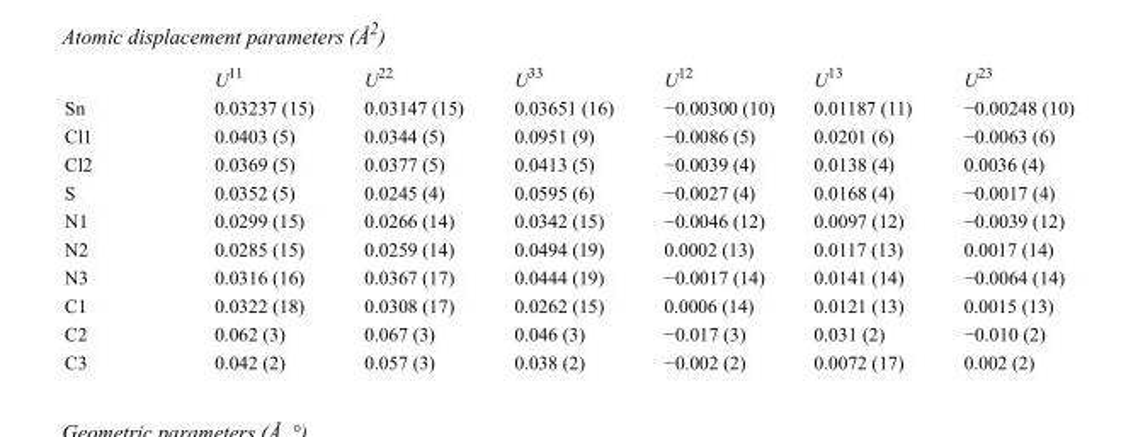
<table><thead><tr><td></td><td>U<sup>11</sup></td><td>U<sup>22</sup></td><td>U<sup>33</sup></td><td>U<sup>12</sup></td><td>U<sup>13</sup></td><td>U<sup>23</sup></td></tr></thead><tbody><tr><td>Sn</td><td>0.03237 (15)</td><td>0.03147 (15)</td><td>0.03651 (16)</td><td>−0.00300 (10)</td><td>0.01187 (11)</td><td>−0.00248 (10)</td></tr><tr><td>Cl1</td><td>0.0403 (5)</td><td>0.0344 (5)</td><td>0.0951 (9)</td><td>−0.0086 (5)</td><td>0.0201 (6)</td><td>−0.0063 (6)</td></tr><tr><td>Cl2</td><td>0.0369 (5)</td><td>0.0377 (5)</td><td>0.0413 (5)</td><td>−0.0039 (4)</td><td>0.0138 (4)</td><td>0.0036 (4)</td></tr><tr><td>S</td><td>0.0352 (5)</td><td>0.0245 (4)</td><td>0.0595 (6)</td><td>−0.0027 (4)</td><td>0.0168 (4)</td><td>−0.0017 (4)</td></tr><tr><td>N1</td><td>0.0299 (15)</td><td>0.0266 (14)</td><td>0.0342 (15)</td><td>−0.0046 (12)</td><td>0.0097 (12)</td><td>−0.0039 (12)</td></tr><tr><td>N2</td><td>0.0285 (15)</td><td>0.0259 (14)</td><td>0.0494 (19)</td><td>0.0002 (13)</td><td>0.0117 (13)</td><td>0.0017 (14)</td></tr><tr><td>N3</td><td>0.0316 (16)</td><td>0.0367 (17)</td><td>0.0444 (19)</td><td>−0.0017 (14)</td><td>0.0141 (14)</td><td>−0.0064 (14)</td></tr><tr><td>C1</td><td>0.0322 (18)</td><td>0.0308 (17)</td><td>0.0262 (15)</td><td>0.0006 (14)</td><td>0.0121 (13)</td><td>0.0015 (13)</td></tr><tr><td>C2</td><td>0.062 (3)</td><td>0.067 (3)</td><td>0.046 (3)</td><td>−0.017 (3)</td><td>0.031 (2)</td><td>−0.010 (2)</td></tr><tr><td>C3</td><td>0.042 (2)</td><td>0.057 (3)</td><td>0.038 (2)</td><td>−0.002 (2)</td><td>0.0072 (17)</td><td>0.002 (2)</td></tr></tbody></table>